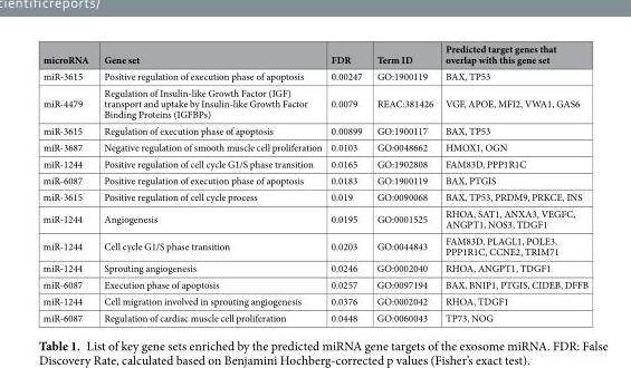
<table><thead><tr><td>microRNA</td><td>Gene set</td><td>FDR</td><td>Term ID</td><td>Predicted target genes that overlap with this gene set</td></tr></thead><tbody><tr><td>miR-3615</td><td>Positive regulation of execution phase of apoptosis</td><td>0.00247</td><td>GO:1900119</td><td>BAX, TP53</td></tr><tr><td>miR-4479</td><td>Regulation of Insulin-like Growth Factor (IGF) transport and uptake by Insulin-like Growth Factor Binding Proteins (IGFBPs)</td><td>0.0079</td><td>REAC:381426</td><td>VGF, APOE, MFI2, VWA1, GAS6</td></tr><tr><td>miR-3615</td><td>Regulation of execution phase of apoptosis</td><td>0.00899</td><td>GO:1900117</td><td>BAX, TP53</td></tr><tr><td>miR-3687</td><td>Negative regulation of smooth muscle cell proliferation</td><td>0.0103</td><td>GO:0048662</td><td>HMOX1, OGN</td></tr><tr><td>miR-1244</td><td>Positive regulation of cell cycle G1/S phase transition</td><td>0.0165</td><td>GO:1902808</td><td>FAM83D, PPP1R1C</td></tr><tr><td>miR-6087</td><td>Positive regulation of execution phase of apoptosis</td><td>0.0183</td><td>GO:1900119</td><td>BAX, PTGIS</td></tr><tr><td>miR-3615</td><td>Positive regulation of cell cycle process</td><td>0.019</td><td>GO:0090068</td><td>BAX, TP53, PRDM9, PRKCE, INS</td></tr><tr><td>miR-1244</td><td>Angiogenesis</td><td>0.0195</td><td>GO:0001525</td><td>RHOA, SAT1, ANXA3, VEGFC, ANGPT1, NOS3, TDGF1</td></tr><tr><td>miR-1244</td><td>Cell cycle G1/S phase transition</td><td>0.0203</td><td>GO:0044843</td><td>FAM83D, PLAGL1, POLE3, PPP1R1C, CCNE2, TRIM71</td></tr><tr><td>miR-1244</td><td>Sprouting angiogenesis</td><td>0.0246</td><td>GO:0002040</td><td>RHOA, ANGPT1, TDGF1</td></tr><tr><td>miR-6087</td><td>Execution phase of apoptosis</td><td>0.0257</td><td>GO:0097194</td><td>BAX, BNIP1, PTGIS, CIDEB, DFFB</td></tr><tr><td>miR-1244</td><td>Cell migration involved in sprouting angiogenesis</td><td>0.0376</td><td>GO:0002042</td><td>RHOA, TDGF1</td></tr><tr><td>miR-6087</td><td>Regulation of cardiac muscle cell proliferation</td><td>0.0448</td><td>GO:0060043</td><td>TP73, NOG</td></tr></tbody></table>